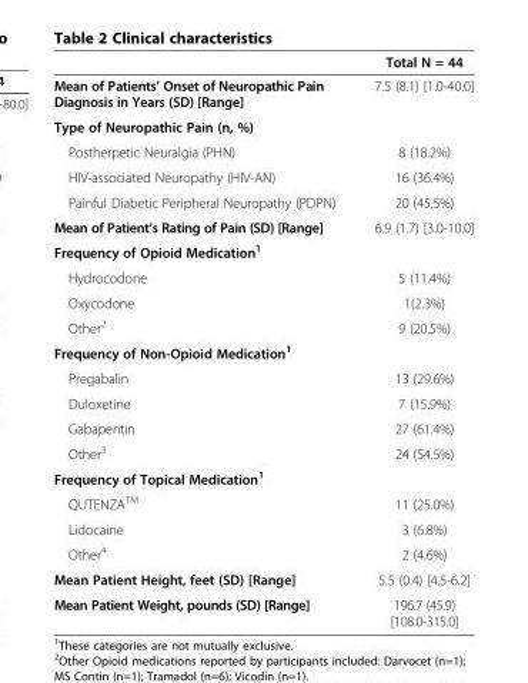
<table><thead><tr><td></td><td>Total N = 44</td></tr></thead><tbody><tr><td>Mean of Patients’ Onset of Neuropathic Pain Diagnosis in Years (SD) [Range]</td><td>7.5 (8.1) [1.0-40.0]</td></tr><tr><td colspan="2">Type of Neuropathic Pain (n, %)</td></tr><tr><td>Postherpetic Neuralgia (PHN)</td><td>8 (18.2%)</td></tr><tr><td>HIV-associated Neuropathy (HIV-AN)</td><td>16 (36.4%)</td></tr><tr><td>Painful Diabetic Peripheral Neuropathy (PDPN)</td><td>20 (45.5%)</td></tr><tr><td>Mean of Patient’s Rating of Pain (SD) [Range]</td><td>6.9 (1.7) [3.0-10.0]</td></tr><tr><td colspan="2">Frequency of Opioid Medication<sup>1</sup></td></tr><tr><td>Hydrocodone</td><td>5 (11.4%)</td></tr><tr><td>Oxycodone</td><td>1(2.3%)</td></tr><tr><td>Other<sup>2</sup></td><td>9 (20.5%)</td></tr><tr><td colspan="2">Frequency of Non-Opioid Medication<sup>1</sup></td></tr><tr><td>Pregabalin</td><td>13 (29.6%)</td></tr><tr><td>Duloxetine</td><td>7 (15.9%)</td></tr><tr><td>Gabapentin</td><td>27 (61.4%)</td></tr><tr><td>Other<sup>3</sup></td><td>24 (54.5%)</td></tr><tr><td colspan="2">Frequency of Topical Medication<sup>1</sup></td></tr><tr><td>QUTENZA<sup>TM</sup></td><td>11 (25.0%)</td></tr><tr><td>Lidocaine</td><td>3 (6.8%)</td></tr><tr><td>Other<sup>4</sup></td><td>2 (4.6%)</td></tr><tr><td>Mean Patient Height, feet (SD) [Range]</td><td>5.5 (0.4) [4.5-6.2]</td></tr><tr><td>Mean Patient Weight, pounds (SD) [Range]</td><td>196.7 (45.9) [108.0-315.0]</td></tr></tbody></table>